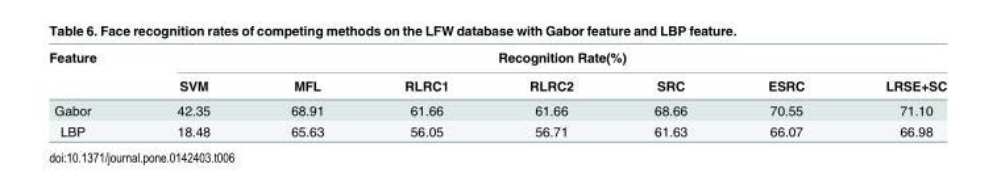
<table><thead><tr><td rowspan="2">Feature</td><td colspan="7">Recognition Rate(%)</td></tr><tr><td>SVM</td><td>MFL</td><td>RLRC1</td><td>RLRC2</td><td>SRC</td><td>ESRC</td><td>LRSE+SC</td></tr></thead><tbody><tr><td>Gabor</td><td>42.35</td><td>68.91</td><td>61.66</td><td>61.66</td><td>68.66</td><td>70.55</td><td>71.10</td></tr><tr><td>LBP</td><td>18.48</td><td>65.63</td><td>56.05</td><td>56.71</td><td>61.63</td><td>66.07</td><td>66.98</td></tr></tbody></table>